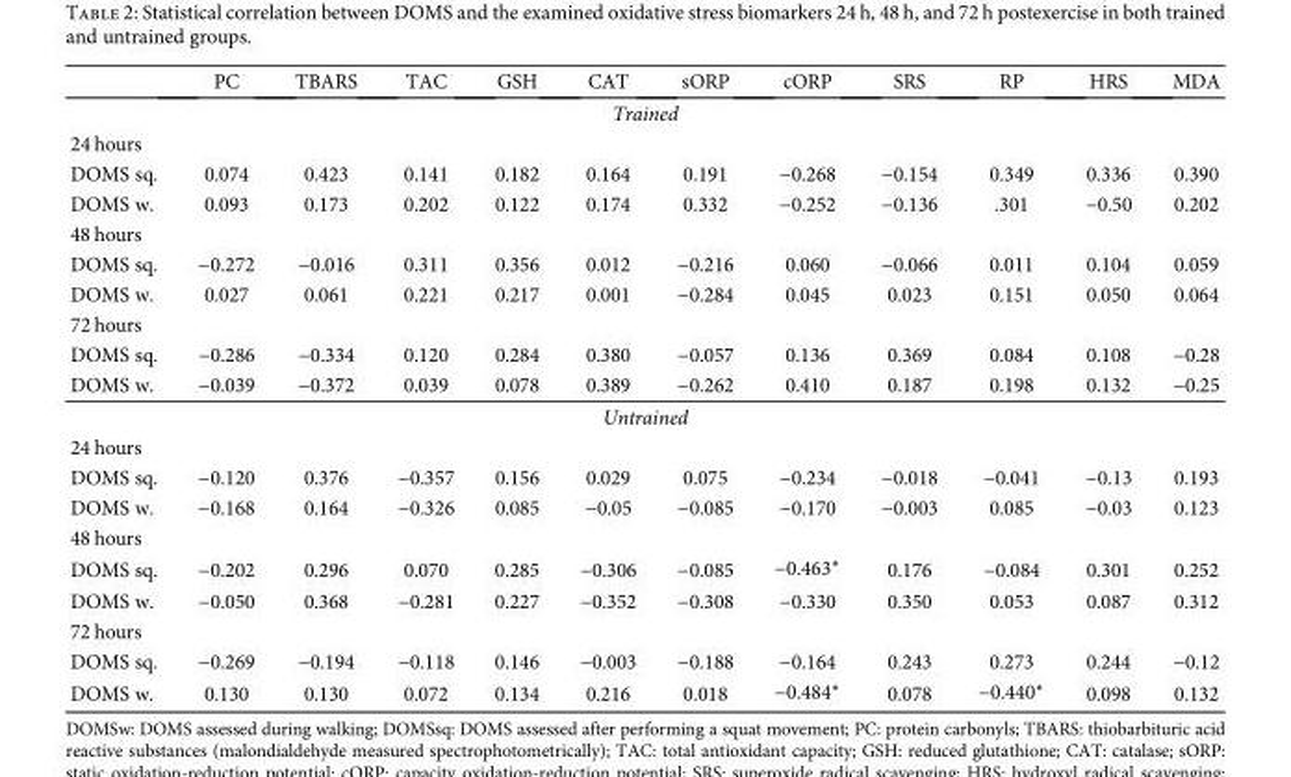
<table><thead><tr><td></td><td>PC</td><td>TBARS</td><td>TAC</td><td>GSH</td><td>CAT</td><td>sORP</td><td>cORP</td><td>SRS</td><td>RP</td><td>HRS</td><td>MDA</td></tr></thead><tbody><tr><td colspan="12">Trained</td></tr><tr><td colspan="12">24 hours</td></tr><tr><td>DOMS sq.</td><td>0.074</td><td>0.423</td><td>0.141</td><td>0.182</td><td>0.164</td><td>0.191</td><td>−0.268</td><td>−0.154</td><td>0.349</td><td>0.336</td><td>0.390</td></tr><tr><td>DOMS w.</td><td>0.093</td><td>0.173</td><td>0.202</td><td>0.122</td><td>0.174</td><td>0.332</td><td>−0.252</td><td>−0.136</td><td>.301</td><td>−0.50</td><td>0.202</td></tr><tr><td colspan="12">48 hours</td></tr><tr><td>DOMS sq.</td><td>−0.272</td><td>−0.016</td><td>0.311</td><td>0.356</td><td>0.012</td><td>−0.216</td><td>0.060</td><td>−0.066</td><td>0.011</td><td>0.104</td><td>0.059</td></tr><tr><td>DOMS w.</td><td>0.027</td><td>0.061</td><td>0.221</td><td>0.217</td><td>0.001</td><td>−0.284</td><td>0.045</td><td>0.023</td><td>0.151</td><td>0.050</td><td>0.064</td></tr><tr><td colspan="12">72 hours</td></tr><tr><td>DOMS sq.</td><td>−0.286</td><td>−0.334</td><td>0.120</td><td>0.284</td><td>0.380</td><td>−0.057</td><td>0.136</td><td>0.369</td><td>0.084</td><td>0.108</td><td>−0.28</td></tr><tr><td>DOMS w.</td><td>−0.039</td><td>−0.372</td><td>0.039</td><td>0.078</td><td>0.389</td><td>−0.262</td><td>0.410</td><td>0.187</td><td>0.198</td><td>0.132</td><td>−0.25</td></tr><tr><td colspan="12">Untrained</td></tr><tr><td colspan="12">24 hours</td></tr><tr><td>DOMS sq.</td><td>−0.120</td><td>0.376</td><td>−0.357</td><td>0.156</td><td>0.029</td><td>0.075</td><td>−0.234</td><td>−0.018</td><td>−0.041</td><td>−0.13</td><td>0.193</td></tr><tr><td>DOMS w.</td><td>−0.168</td><td>0.164</td><td>−0.326</td><td>0.085</td><td>−0.05</td><td>−0.085</td><td>−0.170</td><td>−0.003</td><td>0.085</td><td>−0.03</td><td>0.123</td></tr><tr><td colspan="12">48 hours</td></tr><tr><td>DOMS sq.</td><td>−0.202</td><td>0.296</td><td>0.070</td><td>0.285</td><td>−0.306</td><td>−0.085</td><td>−0.463∗</td><td>0.176</td><td>−0.084</td><td>0.301</td><td>0.252</td></tr><tr><td>DOMS w.</td><td>−0.050</td><td>0.368</td><td>−0.281</td><td>0.227</td><td>−0.352</td><td>−0.308</td><td>−0.330</td><td>0.350</td><td>0.053</td><td>0.087</td><td>0.312</td></tr><tr><td colspan="12">72 hours</td></tr><tr><td>DOMS sq.</td><td>−0.269</td><td>−0.194</td><td>−0.118</td><td>0.146</td><td>−0.003</td><td>−0.188</td><td>−0.164</td><td>0.243</td><td>0.273</td><td>0.244</td><td>−0.12</td></tr><tr><td>DOMS w.</td><td>0.130</td><td>0.130</td><td>0.072</td><td>0.134</td><td>0.216</td><td>0.018</td><td>−0.484∗</td><td>0.078</td><td>−0.440∗</td><td>0.098</td><td>0.132</td></tr></tbody></table>